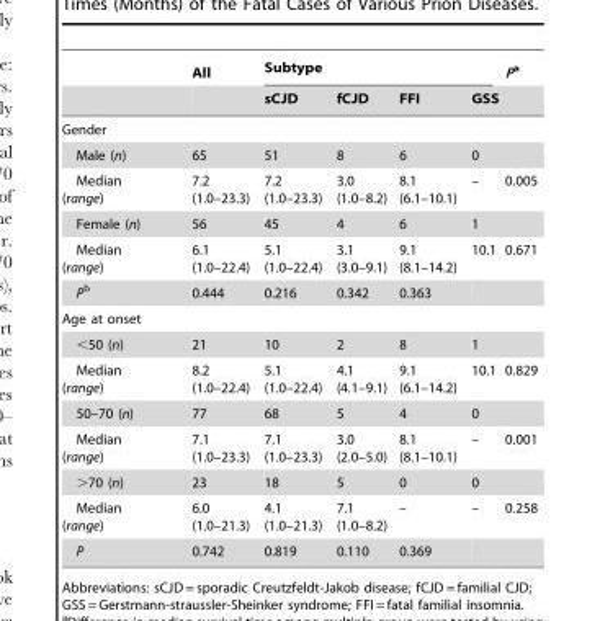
<table><thead><tr><td rowspan="2"></td><td rowspan="2">All</td><td colspan="4">Subtype</td><td rowspan="2">Pa</td></tr><tr><td>sCJD</td><td>fCJD</td><td>FFI</td><td>GSS</td></tr></thead><tbody><tr><td colspan="7">Gender</td></tr><tr><td>Male (n)</td><td>65</td><td>51</td><td>8</td><td>6</td><td>0</td><td></td></tr><tr><td>Median (range)</td><td>7.2 (1.0–23.3)</td><td>7.2 (1.0–23.3)</td><td>3.0 (1.0–8.2)</td><td>8.1 (6.1–10.1)</td><td>–</td><td>0.005</td></tr><tr><td>Female (n)</td><td>56</td><td>45</td><td>4</td><td>6</td><td>1</td><td></td></tr><tr><td>Median (range)</td><td>6.1 (1.0–22.4)</td><td>5.1 (1.0–22.4)</td><td>3.1 (3.0–9.1)</td><td>9.1 (8.1–14.2)</td><td>10.1</td><td>0.671</td></tr><tr><td>Pb</td><td>0.444</td><td>0.216</td><td>0.342</td><td>0.363</td><td></td><td></td></tr><tr><td colspan="7">Age at onset</td></tr><tr><td>&lt;50 (n)</td><td>21</td><td>10</td><td>2</td><td>8</td><td>1</td><td></td></tr><tr><td>Median (range)</td><td>8.2 (1.0–22.4)</td><td>5.1 (1.0–22.4)</td><td>4.1 (4.1–9.1)</td><td>9.1 (6.1–14.2)</td><td>10.1</td><td>0.829</td></tr><tr><td>50–70 (n)</td><td>77</td><td>68</td><td>5</td><td>4</td><td>0</td><td></td></tr><tr><td>Median (range)</td><td>7.1 (1.0–23.3)</td><td>7.1 (1.0–23.3)</td><td>3.0 (2.0–5.0)</td><td>8.1 (8.1–10.1)</td><td>–</td><td>0.001</td></tr><tr><td>&gt;70 (n)</td><td>23</td><td>18</td><td>5</td><td>0</td><td>0</td><td></td></tr><tr><td>Median (range)</td><td>6.0 (1.0–21.3)</td><td>4.1 (1.0–21.3)</td><td>7.1 (1.0–8.2)</td><td>–</td><td>–</td><td>0.258</td></tr><tr><td>P</td><td>0.742</td><td>0.819</td><td>0.110</td><td>0.369</td><td></td><td></td></tr></tbody></table>